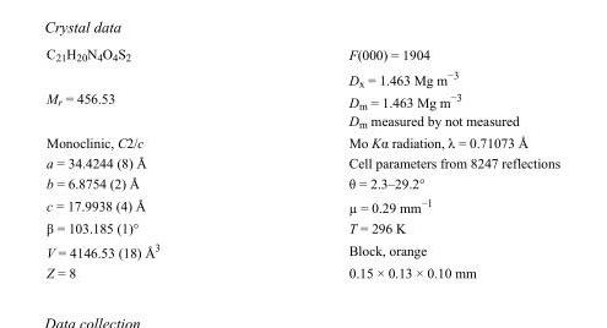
<table><tbody><tr><td>C<sub>21</sub>H<sub>20</sub>N<sub>4</sub>O<sub>4</sub>S<sub>2</sub></td><td>F(000) = 1904</td></tr><tr><td>M<sub>r</sub> = 456.53</td><td>D<sub>x</sub> = 1.463 Mg m<sup>−3</sup> D<sub>m</sub> = 1.463 Mg m<sup>−3</sup> D<sub>m</sub> measured by not measured</td></tr><tr><td>Monoclinic, C2/c</td><td>Mo Kα radiation, λ = 0.71073 Å</td></tr><tr><td>a = 34.4244 (8) Å</td><td>Cell parameters from 8247 reflections</td></tr><tr><td>b = 6.8754 (2) Å</td><td>θ = 2.3–29.2°</td></tr><tr><td>c = 17.9938 (4) Å</td><td>µ = 0.29 mm<sup>−1</sup></td></tr><tr><td>β = 103.185 (1)°</td><td>T = 296 K</td></tr><tr><td>V = 4146.53 (18) Å<sup>3</sup></td><td>Block, orange</td></tr><tr><td>Z = 8</td><td>0.15 × 0.13 × 0.10 mm</td></tr></tbody></table>